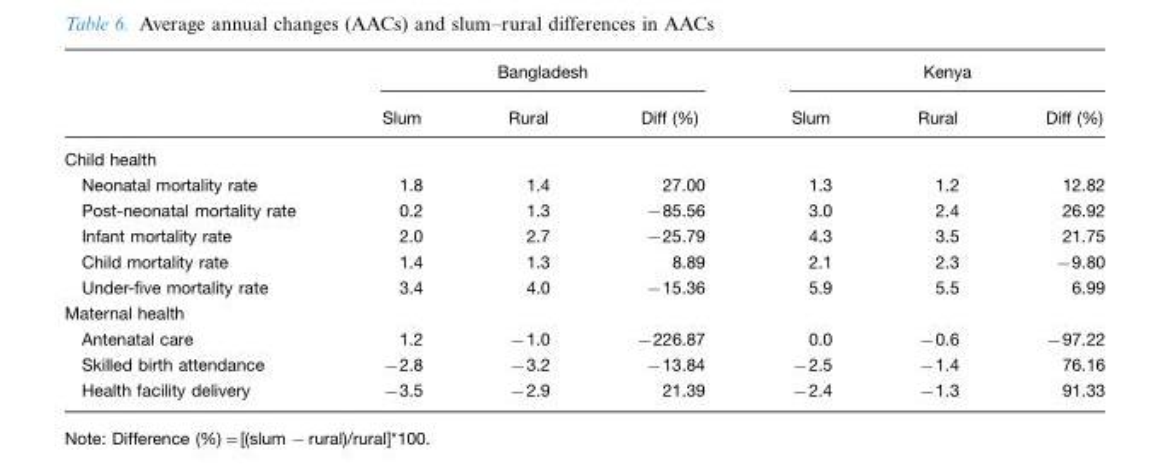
<table><thead><tr><td rowspan="2"></td><td colspan="3">Bangladesh</td><td colspan="3">Kenya</td></tr><tr><td>Slum</td><td>Rural</td><td>Diff (%)</td><td>Slum</td><td>Rural</td><td>Diff (%)</td></tr></thead><tbody><tr><td colspan="7">Child health</td></tr><tr><td>Neonatal mortality rate</td><td>1.8</td><td>1.4</td><td>27.00</td><td>1.3</td><td>1.2</td><td>12.82</td></tr><tr><td>Post-neonatal mortality rate</td><td>0.2</td><td>1.3</td><td>−85.56</td><td>3.0</td><td>2.4</td><td>26.92</td></tr><tr><td>Infant mortality rate</td><td>2.0</td><td>2.7</td><td>−25.79</td><td>4.3</td><td>3.5</td><td>21.75</td></tr><tr><td>Child mortality rate</td><td>1.4</td><td>1.3</td><td>8.89</td><td>2.1</td><td>2.3</td><td>−9.80</td></tr><tr><td>Under-five mortality rate</td><td>3.4</td><td>4.0</td><td>−15.36</td><td>5.9</td><td>5.5</td><td>6.99</td></tr><tr><td colspan="7">Maternal health</td></tr><tr><td>Antenatal care</td><td>1.2</td><td>−1.0</td><td>−226.87</td><td>0.0</td><td>−0.6</td><td>−97.22</td></tr><tr><td>Skilled birth attendance</td><td>−2.8</td><td>−3.2</td><td>−13.84</td><td>−2.5</td><td>−1.4</td><td>76.16</td></tr><tr><td>Health facility delivery</td><td>−3.5</td><td>−2.9</td><td>21.39</td><td>−2.4</td><td>−1.3</td><td>91.33</td></tr></tbody></table>